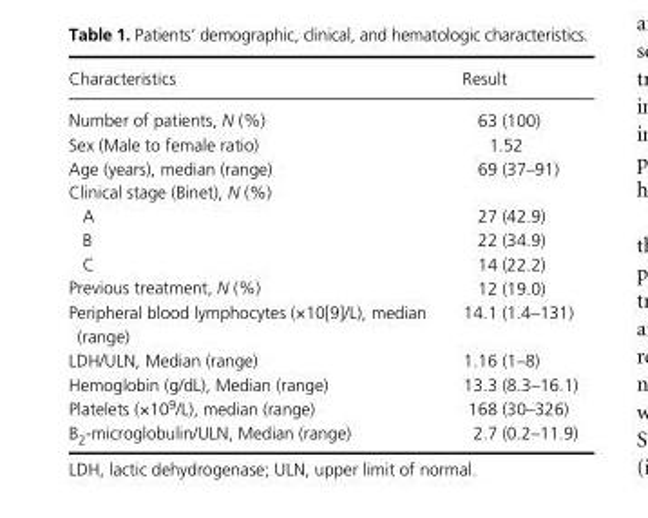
<table><thead><tr><td>Characteristics</td><td>Result</td></tr></thead><tbody><tr><td>Number of patients, N (%)</td><td>63 (100)</td></tr><tr><td>Sex (Male to female ratio)</td><td>1.52</td></tr><tr><td>Age (years), median (range)</td><td>69 (37–91)</td></tr><tr><td colspan="2">Clinical stage (Binet), N (%)</td></tr><tr><td>A</td><td>27 (42.9)</td></tr><tr><td>B</td><td>22 (34.9)</td></tr><tr><td>C</td><td>14 (22.2)</td></tr><tr><td>Previous treatment, N (%)</td><td>12 (19.0)</td></tr><tr><td>Peripheral blood lymphocytes (×10[9]/L), median (range)</td><td>14.1 (1.4–131)</td></tr><tr><td>LDH/ULN, Median (range)</td><td>1.16 (1–8)</td></tr><tr><td>Hemoglobin (g/dL), Median (range)</td><td>13.3 (8.3–16.1)</td></tr><tr><td>Platelets (×10<sup>9</sup>/L), median (range)</td><td>168 (30–326)</td></tr><tr><td>B<sub>2</sub>- microglobulin/ULN, Median (range)</td><td>2.7 (0.2–11.9)</td></tr></tbody></table>